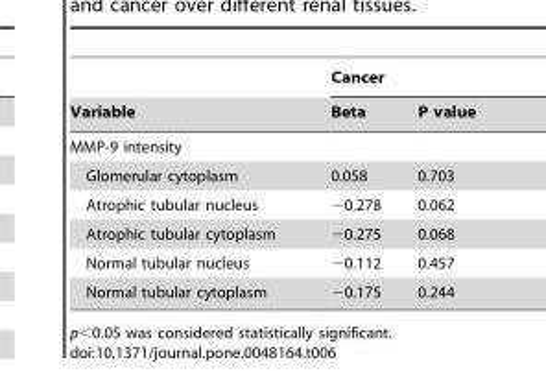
<table><thead><tr><td rowspan="2">Variable</td><td colspan="2">Cancer</td></tr><tr><td>Beta</td><td>P value</td></tr></thead><tbody><tr><td colspan="3">MMP-9 intensity</td></tr><tr><td>Glomerular cytoplasm</td><td>0.058</td><td>0.703</td></tr><tr><td>Atrophic tubular nucleus</td><td>−0.278</td><td>0.062</td></tr><tr><td>Atrophic tubular cytoplasm</td><td>−0.275</td><td>0.068</td></tr><tr><td>Normal tubular nucleus</td><td>−0.112</td><td>0.457</td></tr><tr><td>Normal tubular cytoplasm</td><td>−0.175</td><td>0.244</td></tr></tbody></table>